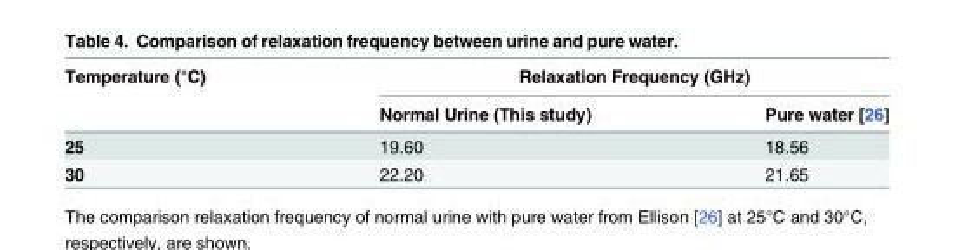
<table><thead><tr><td rowspan="2">Temperature (°C)</td><td colspan="2">Relaxation Frequency (GHz)</td></tr><tr><td>Normal Urine (This study)</td><td>Pure water [26]</td></tr></thead><tbody><tr><td>25</td><td>19.60</td><td>18.56</td></tr><tr><td>30</td><td>22.20</td><td>21.65</td></tr></tbody></table>